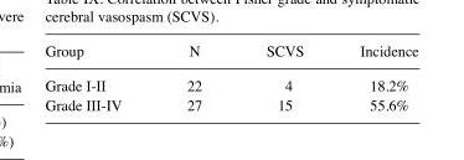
<table><thead><tr><td>Group</td><td>N</td><td>SCVS</td><td>Incidence</td></tr></thead><tbody><tr><td>Grade I-II</td><td>22</td><td>4</td><td>18.2%</td></tr><tr><td>Grade III-IV</td><td>27</td><td>15</td><td>55.6%</td></tr></tbody></table>